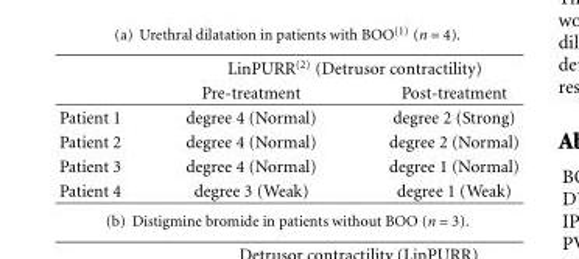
<table><thead><tr><td rowspan="2"></td><td colspan="2">LinPURR<sup>(2)</sup> (Detrusor contractility)</td></tr><tr><td>Pre-treatment</td><td>Post-treatment</td></tr></thead><tbody><tr><td>Patient 1</td><td>degree 4 (Normal)</td><td>degree 2 (Strong)</td></tr><tr><td>Patient 2</td><td>degree 4 (Normal)</td><td>degree 2 (Normal)</td></tr><tr><td>Patient 3</td><td>degree 4 (Normal)</td><td>degree 1 (Normal)</td></tr><tr><td>Patient 4</td><td>degree 3 (Weak)</td><td>degree 1 (Weak)</td></tr></tbody></table>